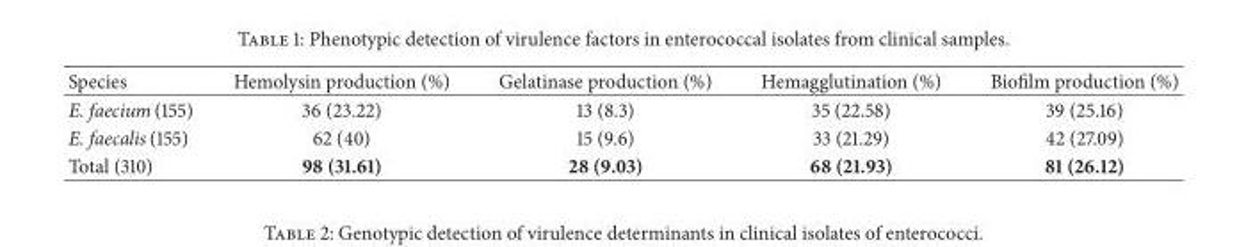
<table><thead><tr><td>Species</td><td>Hemolysin production (%)</td><td>Gelatinase production (%)</td><td>Hemagglutination (%)</td><td>Biofilm production (%)</td></tr></thead><tbody><tr><td>E. faecium (155)</td><td>36 (23.22)</td><td>13 (8.3)</td><td>35 (22.58)</td><td>39 (25.16)</td></tr><tr><td>E. faecalis (155)</td><td>62 (40)</td><td>15 (9.6)</td><td>33 (21.29)</td><td>42 (27.09)</td></tr><tr><td>Total (310)</td><td>98 (31.61)</td><td>28 (9.03)</td><td>68 (21.93)</td><td>81 (26.12)</td></tr></tbody></table>